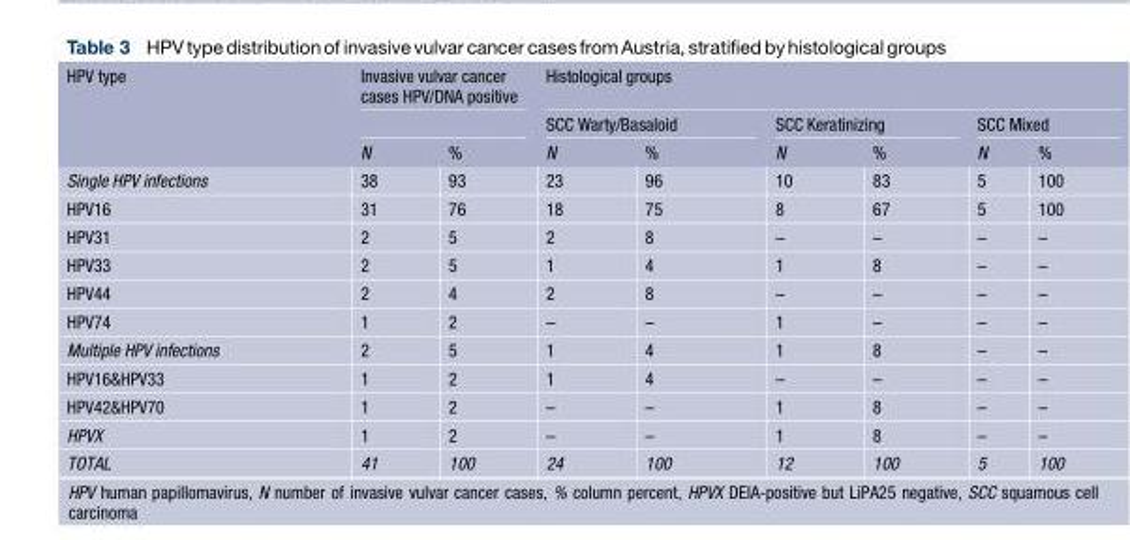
<table><thead><tr><td rowspan="3">HPV type</td><td colspan="2">Invasive vulvar cancer cases HPV/DNA positive</td><td colspan="6">Histological groups</td></tr><tr><td rowspan="2">N</td><td rowspan="2">%</td><td colspan="2">SCC Warty/Basaloid</td><td colspan="2">SCC Keratinizing</td><td colspan="2">SCC Mixed</td></tr><tr><td>N</td><td>%</td><td>N</td><td>%</td><td>N</td><td>%</td></tr></thead><tbody><tr><td>Single HPV infections</td><td>38</td><td>93</td><td>23</td><td>96</td><td>10</td><td>83</td><td>5</td><td>100</td></tr><tr><td>HPV16</td><td>31</td><td>76</td><td>18</td><td>75</td><td>8</td><td>67</td><td>5</td><td>100</td></tr><tr><td>HPV31</td><td>2</td><td>5</td><td>2</td><td>8</td><td>–</td><td>–</td><td>–</td><td>–</td></tr><tr><td>HPV33</td><td>2</td><td>5</td><td>1</td><td>4</td><td>1</td><td>8</td><td>–</td><td>–</td></tr><tr><td>HPV44</td><td>2</td><td>4</td><td>2</td><td>8</td><td>–</td><td>–</td><td>–</td><td>–</td></tr><tr><td>HPV74</td><td>1</td><td>2</td><td>–</td><td>–</td><td>1</td><td>–</td><td>–</td><td>–</td></tr><tr><td>Multiple HPV infections</td><td>2</td><td>5</td><td>1</td><td>4</td><td>1</td><td>8</td><td>–</td><td>–</td></tr><tr><td>HPV16&amp;HPV33</td><td>1</td><td>2</td><td>1</td><td>4</td><td>–</td><td>–</td><td>–</td><td>–</td></tr><tr><td>HPV42&amp;HPV70</td><td>1</td><td>2</td><td>–</td><td>–</td><td>1</td><td>8</td><td>–</td><td>–</td></tr><tr><td>HPVX</td><td>1</td><td>2</td><td>–</td><td>–</td><td>1</td><td>8</td><td>–</td><td>–</td></tr><tr><td>TOTAL</td><td>41</td><td>100</td><td>24</td><td>100</td><td>12</td><td>100</td><td>5</td><td>100</td></tr></tbody></table>